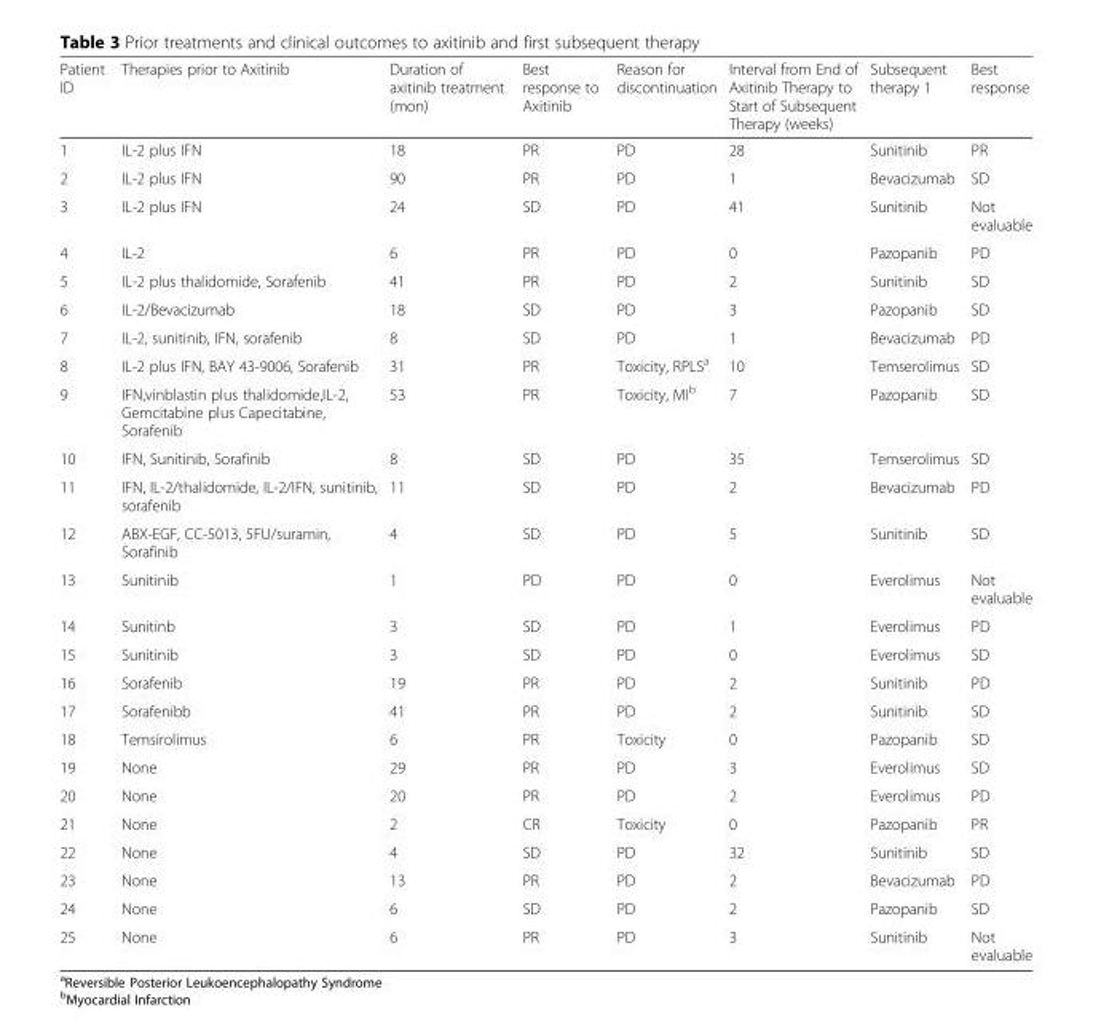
<table><thead><tr><td>Patient ID</td><td>Therapies prior to Axitinib</td><td>Duration of axitinib treatment (mon)</td><td>Best response to Axitinib</td><td>Reason for discontinuation</td><td>Interval from End of Axitinib Therapy to Start of Subsequent Therapy (weeks)</td><td>Subsequent therapy 1</td><td>Best response</td></tr></thead><tbody><tr><td>1</td><td>IL-2 plus IFN</td><td>18</td><td>PR</td><td>PD</td><td>28</td><td>Sunitinib</td><td>PR</td></tr><tr><td>2</td><td>IL-2 plus IFN</td><td>90</td><td>PR</td><td>PD</td><td>1</td><td>Bevacizumab</td><td>SD</td></tr><tr><td>3</td><td>IL-2 plus IFN</td><td>24</td><td>SD</td><td>PD</td><td>41</td><td>Sunitinib</td><td>Not evaluable</td></tr><tr><td>4</td><td>IL-2</td><td>6</td><td>PR</td><td>PD</td><td>0</td><td>Pazopanib</td><td>PD</td></tr><tr><td>5</td><td>IL-2 plus thalidomide, Sorafenib</td><td>41</td><td>PR</td><td>PD</td><td>2</td><td>Sunitinib</td><td>SD</td></tr><tr><td>6</td><td>IL-2/Bevacizumab</td><td>18</td><td>SD</td><td>PD</td><td>3</td><td>Pazopanib</td><td>SD</td></tr><tr><td>7</td><td>IL-2, sunitinib, IFN, sorafenib</td><td>8</td><td>SD</td><td>PD</td><td>1</td><td>Bevacizumab</td><td>PD</td></tr><tr><td>8</td><td>IL-2 plus IFN, BAY 43-9006, Sorafenib</td><td>31</td><td>PR</td><td>Toxicity, RPLS<sup>a</sup></td><td>10</td><td>Temserolimus</td><td>SD</td></tr><tr><td>9</td><td>IFN,vinblastin plus thalidomide,IL-2, Gemcitabine plus Capecitabine, Sorafenib</td><td>53</td><td>PR</td><td>Toxicity, MI<sup>b</sup></td><td>7</td><td>Pazopanib</td><td>SD</td></tr><tr><td>10</td><td>IFN, Sunitinib, Sorafinib</td><td>8</td><td>SD</td><td>PD</td><td>35</td><td>Temserolimus</td><td>SD</td></tr><tr><td>11</td><td>IFN, IL-2/thalidomide, IL-2/IFN, sunitinib, sorafenib</td><td>11</td><td>SD</td><td>PD</td><td>2</td><td>Bevacizumab</td><td>PD</td></tr><tr><td>12</td><td>ABX-EGF, CC-5013, 5FU/suramin, Sorafinib</td><td>4</td><td>SD</td><td>PD</td><td>5</td><td>Sunitinib</td><td>SD</td></tr><tr><td>13</td><td>Sunitinib</td><td>1</td><td>PD</td><td>PD</td><td>0</td><td>Everolimus</td><td>Not evaluable</td></tr><tr><td>14</td><td>Sunitinb</td><td>3</td><td>SD</td><td>PD</td><td>1</td><td>Everolimus</td><td>PD</td></tr><tr><td>15</td><td>Sunitinib</td><td>3</td><td>SD</td><td>PD</td><td>0</td><td>Everolimus</td><td>SD</td></tr><tr><td>16</td><td>Sorafenib</td><td>19</td><td>PR</td><td>PD</td><td>2</td><td>Sunitinib</td><td>PD</td></tr><tr><td>17</td><td>Sorafenibb</td><td>41</td><td>PR</td><td>PD</td><td>2</td><td>Sunitinib</td><td>SD</td></tr><tr><td>18</td><td>Temsirolimus</td><td>6</td><td>PR</td><td>Toxicity</td><td>0</td><td>Pazopanib</td><td>SD</td></tr><tr><td>19</td><td>None</td><td>29</td><td>PR</td><td>PD</td><td>3</td><td>Everolimus</td><td>SD</td></tr><tr><td>20</td><td>None</td><td>20</td><td>PR</td><td>PD</td><td>2</td><td>Everolimus</td><td>PD</td></tr><tr><td>21</td><td>None</td><td>2</td><td>CR</td><td>Toxicity</td><td>0</td><td>Pazopanib</td><td>PR</td></tr><tr><td>22</td><td>None</td><td>4</td><td>SD</td><td>PD</td><td>32</td><td>Sunitinib</td><td>SD</td></tr><tr><td>23</td><td>None</td><td>13</td><td>PR</td><td>PD</td><td>2</td><td>Bevacizumab</td><td>PD</td></tr><tr><td>24</td><td>None</td><td>6</td><td>SD</td><td>PD</td><td>2</td><td>Pazopanib</td><td>SD</td></tr><tr><td>25</td><td>None</td><td>6</td><td>PR</td><td>PD</td><td>3</td><td>Sunitinib</td><td>Not evaluable</td></tr></tbody></table>